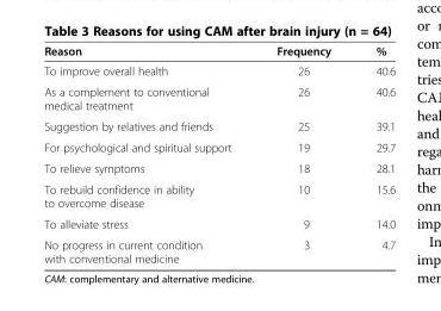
<table><thead><tr><td>Reason</td><td>Frequency</td><td>%</td></tr></thead><tbody><tr><td>To improve overall health</td><td>26</td><td>40.6</td></tr><tr><td>As a complement to conventional medical treatment</td><td>26</td><td>40.6</td></tr><tr><td>Suggestion by relatives and friends</td><td>25</td><td>39.1</td></tr><tr><td>For psychological and spiritual support</td><td>19</td><td>29.7</td></tr><tr><td>To relieve symptoms</td><td>18</td><td>28.1</td></tr><tr><td>To rebuild confidence in ability to overcome disease</td><td>10</td><td>15.6</td></tr><tr><td>To alleviate stress</td><td>9</td><td>14.0</td></tr><tr><td>No progress in current condition with conventional medicine</td><td>3</td><td>4.7</td></tr></tbody></table>